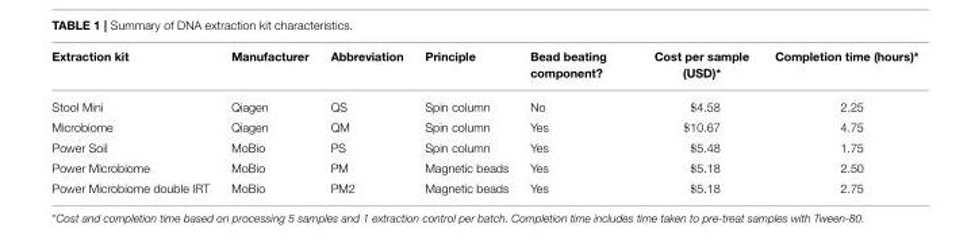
<table><thead><tr><td>Extraction kit</td><td>Manufacturer</td><td>Abbreviation</td><td>Principle</td><td>Bead beating component?</td><td>Cost per sample (USD)*</td><td>Completion time (hours)*</td></tr></thead><tbody><tr><td>Stool Mini</td><td>Qiagen</td><td>QS</td><td>Spin column</td><td>No</td><td>$4.58</td><td>2.25</td></tr><tr><td>Microbiome</td><td>Qiagen</td><td>QM</td><td>Spin column</td><td>Yes</td><td>$10.67</td><td>4.75</td></tr><tr><td>Power Soil</td><td>MoBio</td><td>PS</td><td>Spin column</td><td>Yes</td><td>$5.48</td><td>1.75</td></tr><tr><td>Power Microbiome</td><td>MoBio</td><td>PM</td><td>Magnetic beads</td><td>Yes</td><td>$5.18</td><td>2.50</td></tr><tr><td>Power Microbiome double IRT</td><td>MoBio</td><td>PM2</td><td>Magnetic beads</td><td>Yes</td><td>$5.18</td><td>2.75</td></tr></tbody></table>